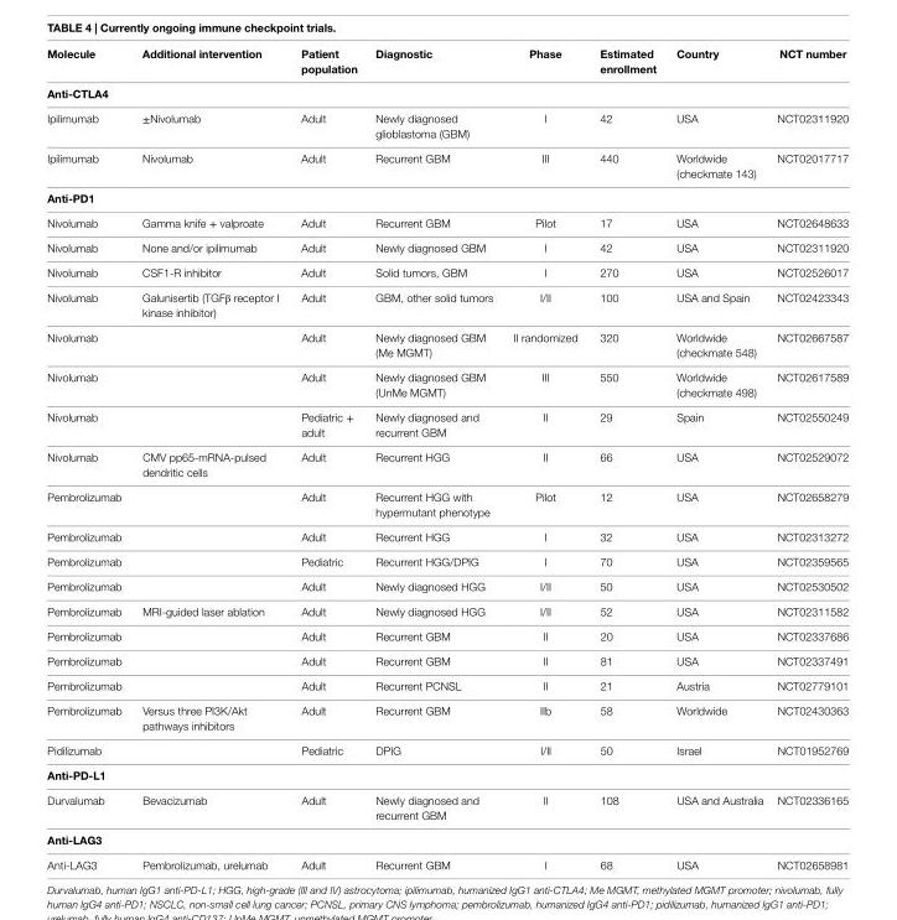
<table><thead><tr><td>Molecule</td><td>Additional intervention</td><td>Patient population</td><td>Diagnostic</td><td>Phase</td><td>estimated enrollment</td><td>Country</td><td>NCT number</td></tr></thead><tbody><tr><td colspan="8">Anti-CTLA4</td></tr><tr><td>Ipilimumab</td><td>±Nivolumab</td><td>Adult</td><td>Newly diagnosed glioblastoma (GBM)</td><td>I</td><td>42</td><td>USA</td><td>NCT02311920</td></tr><tr><td>Ipilimumab</td><td>Nivolumab</td><td>Adult</td><td>Recurrent GBM</td><td>III</td><td>440</td><td>Worldwide (checkmate 143)</td><td>NCT02017717</td></tr><tr><td colspan="8">Anti-PD1</td></tr><tr><td>Nivolumab</td><td>Gamma knife + valproate</td><td>Adult</td><td>Recurrent GBM</td><td>Pilot</td><td>17</td><td>USA</td><td>NCT02648633</td></tr><tr><td>Nivolumab</td><td>None and/or ipilimumab</td><td>Adult</td><td>Newly diagnosed GBM</td><td>I</td><td>42</td><td>USA</td><td>NCT02311920</td></tr><tr><td>Nivolumab</td><td>CSF1-R inhibitor</td><td>Adult</td><td>Solid tumors, GBM</td><td>I</td><td>270</td><td>USA</td><td>NCT02526017</td></tr><tr><td>Nivolumab</td><td>Galunisertib (TGFβ receptor I kinase inhibitor)</td><td>Adult</td><td>GBM, other solid tumors</td><td>I/II</td><td>100</td><td>USA and Spain</td><td>NCT02423343</td></tr><tr><td>Nivolumab</td><td></td><td>Adult</td><td>Newly diagnosed GBM (Me MGMT)</td><td>II randomized</td><td>320</td><td>Worldwide (checkmate 548)</td><td>NCT02667587</td></tr><tr><td>Nivolumab</td><td></td><td>Adult</td><td>Newly diagnosed GBM (UnMe MGMT)</td><td>III</td><td>550</td><td>Worldwide (checkmate 498)</td><td>NCT02617589</td></tr><tr><td>Nivolumab</td><td></td><td>Pediatric + adult</td><td>Newly diagnosed and recurrent GBM</td><td>II</td><td>29</td><td>Spain</td><td>NCT02550249</td></tr><tr><td>Nivolumab</td><td>CMV pp65-mRNA-pulsed dendritic cells</td><td>Adult</td><td>Recurrent HGG</td><td>II</td><td>66</td><td>USA</td><td>NCT02529072</td></tr><tr><td>Pembrolizumab</td><td></td><td>Adult</td><td>Recurrent HGG with hypermutant phenotype</td><td>Pilot</td><td>12</td><td>USA</td><td>NCT02658279</td></tr><tr><td>Pembrolizumab</td><td></td><td>Adult</td><td>Recurrent HGG</td><td>I</td><td>32</td><td>USA</td><td>NCT02313272</td></tr><tr><td>Pembrolizumab</td><td></td><td>Pediatric</td><td>Recurrent HGG/DPIG</td><td>I</td><td>70</td><td>USA</td><td>NCT02359565</td></tr><tr><td>Pembrolizumab</td><td></td><td>Adult</td><td>Newly diagnosed HGG</td><td>I/II</td><td>50</td><td>USA</td><td>NCT02530502</td></tr><tr><td>Pembrolizumab</td><td>MRI-guided laser ablation</td><td>Adult</td><td>Newly diagnosed HGG</td><td>I/II</td><td>52</td><td>USA</td><td>NCT02311582</td></tr><tr><td>Pembrolizumab</td><td></td><td>Adult</td><td>Recurrent GBM</td><td>II</td><td>20</td><td>USA</td><td>NCT02337686</td></tr><tr><td>Pembrolizumab</td><td></td><td>Adult</td><td>Recurrent GBM</td><td>II</td><td>81</td><td>USA</td><td>NCT02337491</td></tr><tr><td>Pembrolizumab</td><td></td><td>Adult</td><td>Recurrent PCNSL</td><td>II</td><td>21</td><td>Austria</td><td>NCT02779101</td></tr><tr><td>Pembrolizumab</td><td>Versus three PI3K/Akt pathways inhibitors</td><td>Adult</td><td>Recurrent GBM</td><td>IIb</td><td>58</td><td>Worldwide</td><td>NCT02430363</td></tr><tr><td>Pidilizumab</td><td></td><td>Pediatric</td><td>DPIG</td><td>I/II</td><td>50</td><td>Israel</td><td>NCT01952769</td></tr><tr><td colspan="8">Anti-PD-L1</td></tr><tr><td>Durvalumab</td><td>Bevacizumab</td><td>Adult</td><td>Newly diagnosed and recurrent GBM</td><td>II</td><td>108</td><td>USA and Australia</td><td>NCT02336165</td></tr><tr><td colspan="8">Anti-LAG3</td></tr><tr><td>Anti-LAG3</td><td>Pembrolizumab, urelumab</td><td>Adult</td><td>Recurrent GBM</td><td>I</td><td>68</td><td>USA</td><td>NCT02658981</td></tr></tbody></table>